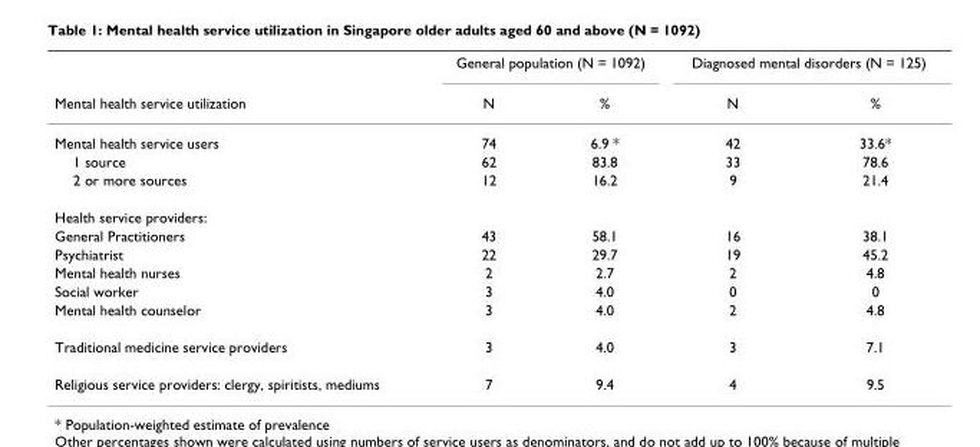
<table><thead><tr><td rowspan="2">Mental health service utilization</td><td colspan="2">General population (N = 1092)</td><td colspan="2">Diagnosed mental disorders (N = 125)</td></tr><tr><td>N</td><td>%</td><td>N</td><td>%</td></tr></thead><tbody><tr><td>Mental health service users</td><td>74</td><td>6.9 *</td><td>42</td><td>33.6*</td></tr><tr><td>1 source</td><td>62</td><td>83.8</td><td>33</td><td>78.6</td></tr><tr><td>2 or more sources</td><td>12</td><td>16.2</td><td>9</td><td>21.4</td></tr><tr><td colspan="5">Health service providers:</td></tr><tr><td>General Practitioners</td><td>43</td><td>58.1</td><td>16</td><td>38.1</td></tr><tr><td>Psychiatrist</td><td>22</td><td>29.7</td><td>19</td><td>45.2</td></tr><tr><td>Mental health nurses</td><td>2</td><td>2.7</td><td>2</td><td>4.8</td></tr><tr><td>Social worker</td><td>3</td><td>4.0</td><td>0</td><td>0</td></tr><tr><td>Mental health counselor</td><td>3</td><td>4.0</td><td>2</td><td>4.8</td></tr><tr><td>Traditional medicine service providers</td><td>3</td><td>4.0</td><td>3</td><td>7.1</td></tr><tr><td>Religious service providers: clergy, spiritists, mediums</td><td>7</td><td>9.4</td><td>4</td><td>9.5</td></tr></tbody></table>